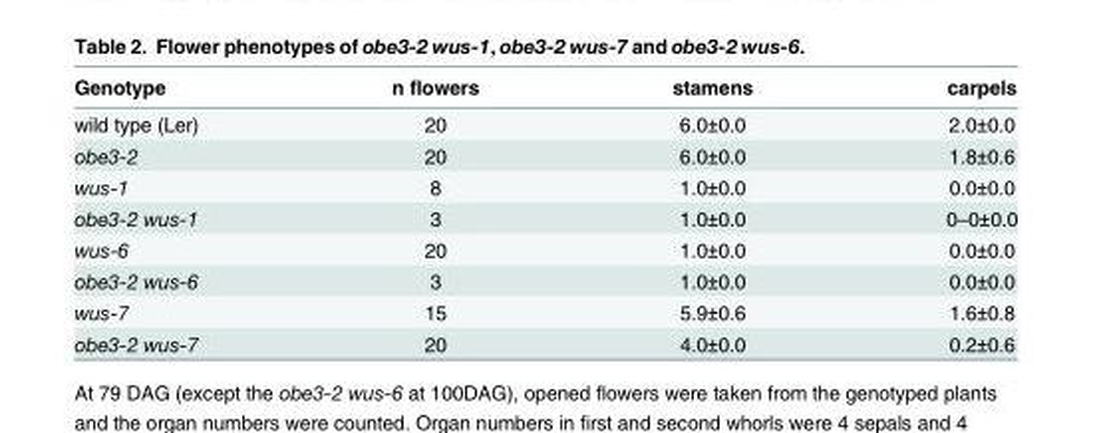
<table><thead><tr><td>Genotype</td><td>n flowers</td><td>stamens</td><td>carpels</td></tr></thead><tbody><tr><td>wild type (Ler)</td><td>20</td><td>6.0±0.0</td><td>2.0±0.0</td></tr><tr><td>obe3-2</td><td>20</td><td>6.0±0.0</td><td>1.8±0.6</td></tr><tr><td>wus-1</td><td>8</td><td>1.0±0.0</td><td>0.0±0.0</td></tr><tr><td>obe3-2 wus-1</td><td>3</td><td>1.0±0.0</td><td>0–0±0.0</td></tr><tr><td>wus-6</td><td>20</td><td>1.0±0.0</td><td>0.0±0.0</td></tr><tr><td>obe3-2 wus-6</td><td>3</td><td>1.0±0.0</td><td>0.0±0.0</td></tr><tr><td>wus-7</td><td>15</td><td>5.9±0.6</td><td>1.6±0.8</td></tr><tr><td>obe3-2 wus-7</td><td>20</td><td>4.0±0.0</td><td>0.2±0.6</td></tr></tbody></table>